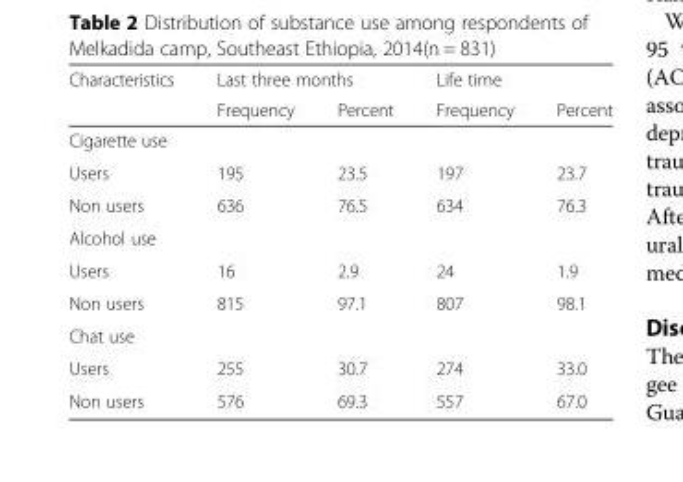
<table><thead><tr><td rowspan="2">Characteristics</td><td colspan="2">Last three months</td><td colspan="2">Life time</td></tr><tr><td>Frequency</td><td>Percent</td><td>Frequency</td><td>Percent</td></tr></thead><tbody><tr><td colspan="5">Cigarette use</td></tr><tr><td>Users</td><td>195</td><td>23.5</td><td>197</td><td>23.7</td></tr><tr><td>Non users</td><td>636</td><td>76.5</td><td>634</td><td>76.3</td></tr><tr><td colspan="5">Alcohol use</td></tr><tr><td>Users</td><td>16</td><td>2.9</td><td>24</td><td>1.9</td></tr><tr><td>Non users</td><td>815</td><td>97.1</td><td>807</td><td>98.1</td></tr><tr><td colspan="5">Chat use</td></tr><tr><td>Users</td><td>255</td><td>30.7</td><td>274</td><td>33.0</td></tr><tr><td>Non users</td><td>576</td><td>69.3</td><td>557</td><td>67.0</td></tr></tbody></table>